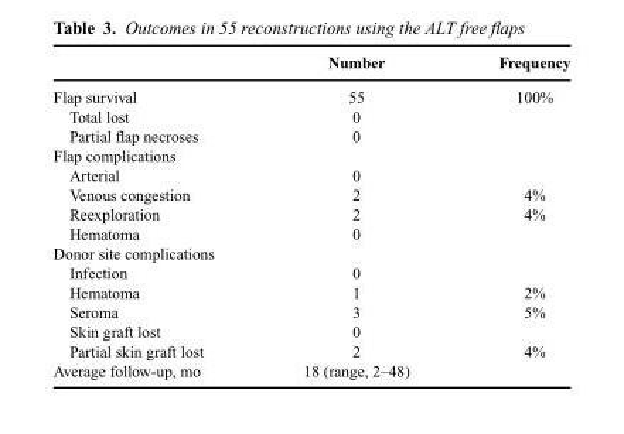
<table><thead><tr><td></td><td>Number</td><td>Frequency</td></tr></thead><tbody><tr><td>Flap survival</td><td>55</td><td>100%</td></tr><tr><td>Total lost</td><td>0</td><td></td></tr><tr><td>Partial flap necroses</td><td>0</td><td></td></tr><tr><td colspan="3">Flap complications</td></tr><tr><td>Arterial</td><td>0</td><td></td></tr><tr><td>Venous congestion</td><td>2</td><td>4%</td></tr><tr><td>Reexploration</td><td>2</td><td>4%</td></tr><tr><td>Hematoma</td><td>0</td><td></td></tr><tr><td colspan="3">Donor site complications</td></tr><tr><td>Infection</td><td>0</td><td></td></tr><tr><td>Hematoma</td><td>1</td><td>2%</td></tr><tr><td>Seroma</td><td>3</td><td>5%</td></tr><tr><td>Skin graft lost</td><td>0</td><td></td></tr><tr><td>Partial skin graft lost</td><td>2</td><td>4%</td></tr><tr><td>Average follow-up, mo</td><td>18 (range, 2–48)</td><td></td></tr></tbody></table>